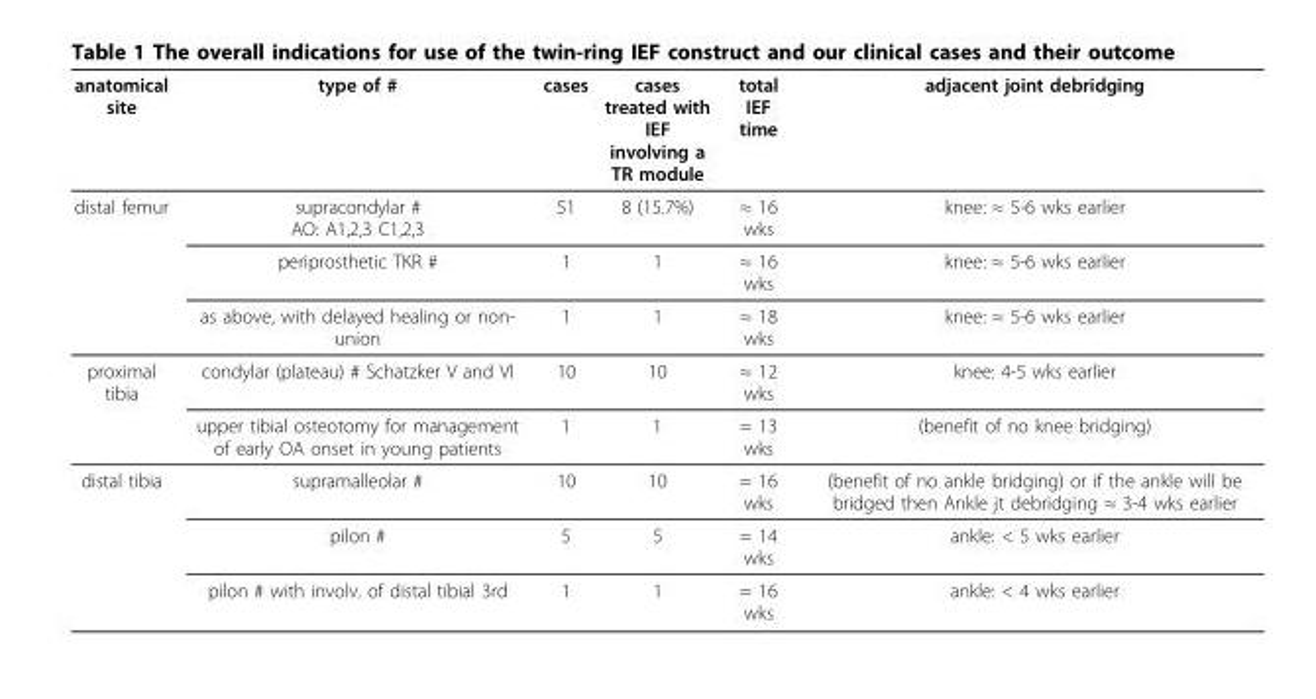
<table><thead><tr><td>anatomical site</td><td>type of #</td><td>cases</td><td>cases treated with IEF involving a TR module</td><td>total IEF time</td><td>adjacent joint debridging</td></tr></thead><tbody><tr><td rowspan="3">distal femur</td><td>supracondylar # AO: A1,2,3 C1,2,3</td><td>51</td><td>8 (15.7%)</td><td>≈ 16 wks</td><td>knee: ≈ 5-6 wks earlier</td></tr><tr><td>periprosthetic TKR #</td><td>1</td><td>1</td><td>≈ 16 wks</td><td>knee: ≈ 5-6 wks earlier</td></tr><tr><td>as above, with delayed healing or non- union</td><td>1</td><td>1</td><td>≈ 18 wks</td><td>knee: ≈ 5-6 wks earlier</td></tr><tr><td rowspan="2">proximal tibia</td><td>condylar (plateau) # Schatzker V and VI</td><td>10</td><td>10</td><td>≈ 12 wks</td><td>knee: 4-5 wks earlier</td></tr><tr><td>upper tibial osteotomy for management of early OA onset in young patients</td><td>1</td><td>1</td><td>≈ 13 wks</td><td>(benefit of no knee bridging)</td></tr><tr><td rowspan="3">distal tibia</td><td>supramalleolar #</td><td>10</td><td>10</td><td>≈ 16 wks</td><td>(benefit of no ankle bridging) or if the ankle will be bridged then Ankle jt debridging ≈ 3-4 wks earlier</td></tr><tr><td>pilon #</td><td>5</td><td>5</td><td>≈ 14 wks</td><td>ankle: &lt; 5 wks earlier</td></tr><tr><td>pilon # with involv. of distal tibial 3rd</td><td>1</td><td>1</td><td>≈ 16 wks</td><td>ankle: &lt; 4 wks earlier</td></tr></tbody></table>